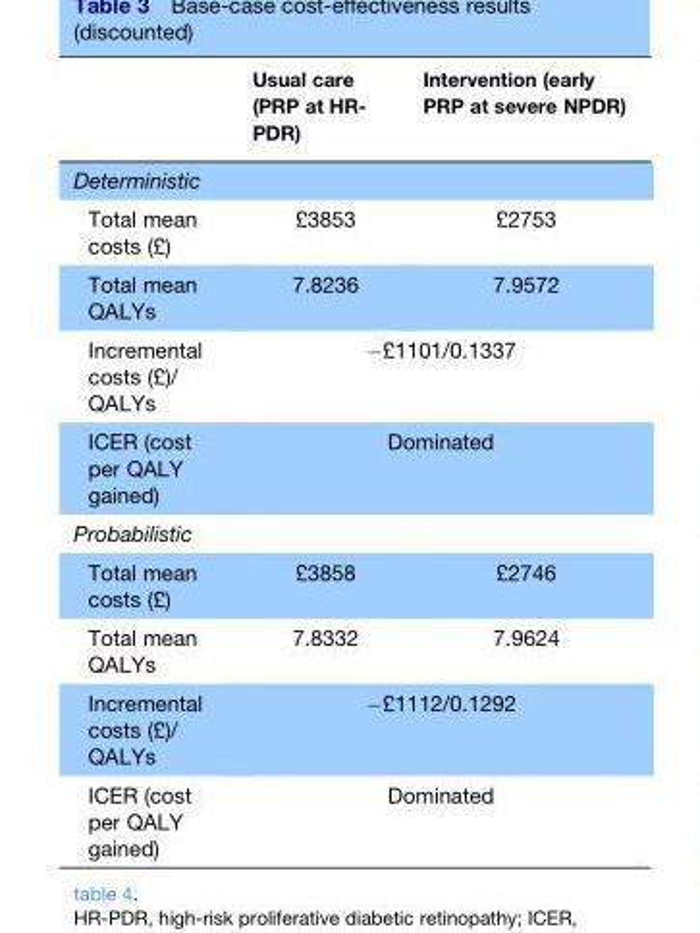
<table><thead><tr><td></td><td>Usual care (PRP at HR- PDR)</td><td>Intervention (early PRP at severe NPDR)</td></tr></thead><tbody><tr><td colspan="3">Deterministic</td></tr><tr><td>Total mean costs (£)</td><td>£3853</td><td>£2753</td></tr><tr><td>Total mean QALYs</td><td>7.8236</td><td>7.9572</td></tr><tr><td>Incremental costs (£)/ QALYs</td><td colspan="2">−£1101/0.1337</td></tr><tr><td>ICER (cost per QALY gained)</td><td colspan="2">Dominated</td></tr><tr><td colspan="3">Probabilistic</td></tr><tr><td>Total mean costs (£)</td><td>£3858</td><td>£2746</td></tr><tr><td>Total mean QALYs</td><td>7.8332</td><td>7.9624</td></tr><tr><td>Incremental costs (£)/ QALYs</td><td colspan="2">−£1112/0.1292</td></tr><tr><td>ICER (cost per QALY gained)</td><td colspan="2">Dominated</td></tr></tbody></table>